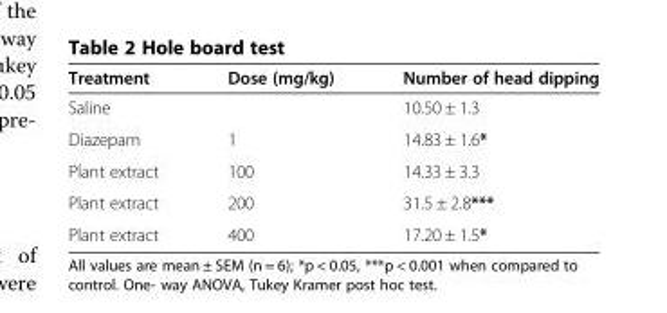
<table><thead><tr><td>Treatment</td><td>Dose (mg/kg)</td><td>Number of head dipping</td></tr></thead><tbody><tr><td>Saline</td><td></td><td>10.50 ± 1.3</td></tr><tr><td>Diazepam</td><td>1</td><td>14.83 ± 1.6*</td></tr><tr><td>Plant extract</td><td>100</td><td>14.33 ± 3.3</td></tr><tr><td>Plant extract</td><td>200</td><td>31.5 ± 2.8***</td></tr><tr><td>Plant extract</td><td>400</td><td>17.20 ± 1.5*</td></tr></tbody></table>